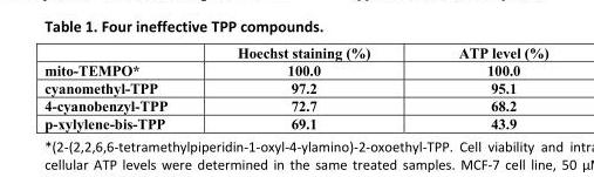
<table><thead><tr><td></td><td>Hoechst staining (%)</td><td>ATP level (%)</td></tr></thead><tbody><tr><td>mito-TEMPO*</td><td>100.0</td><td>100.0</td></tr><tr><td>cyanomethyl-TPP</td><td>97.2</td><td>95.1</td></tr><tr><td>4-cyanobenzyl-TPP</td><td>72.7</td><td>68.2</td></tr><tr><td>p-xylylene-bis-TPP</td><td>69.1</td><td>43.9</td></tr></tbody></table>